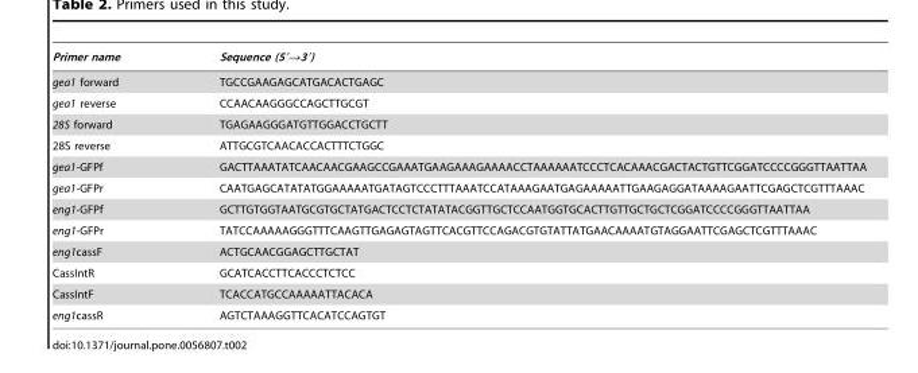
<table><thead><tr><td>Primer name</td><td>Sequence (5′→3′)</td></tr></thead><tbody><tr><td>gea1 forward</td><td>TGCCGAAGAGCATGACACTGAGC</td></tr><tr><td>gea1 reverse</td><td>CCAACAAGGGCCAGCTTGCGT</td></tr><tr><td>28S forward</td><td>TGAGAAGGGATGTTGGACCTGCTT</td></tr><tr><td>28S reverse</td><td>ATTGCGTCAACACCACTTTCTGGC</td></tr><tr><td>gea1-GFPf</td><td>GACTTAAATATCAACAACGAAGCCGAAATGAAGAAAGAAAACCTAAAAAATCCCTCACAAACGACTACTGTTCGGATCCCCGGGTTAATTAA</td></tr><tr><td>gea1-GFPr</td><td>CAATGAGCATATATGGAAAAATGATAGTCCCTTTAAATCCATAAAGAATGAGAAAAATTGAAGAGGATAAAAGAATTCGAGCTCGTTTAAAC</td></tr><tr><td>eng1-GFPf</td><td>GCTTGTGGTAATGCGTGCTATGACTCCTCTATATACGGTTGCTCCAATGGTGCACTTGTTGCTGCTCGGATCCCCGGGTTAATTAA</td></tr><tr><td>eng1-GFPr</td><td>TATCCAAAAAGGGTTTCAAGTTGAGAGTAGTTCACGTTCCAGACGTGTATTATGAACAAAATGTAGGAATTCGAGCTCGTTTAAAC</td></tr><tr><td>eng1cassF</td><td>ACTGCAACGGAGCTTGCTAT</td></tr><tr><td>CassIntR</td><td>GCATCACCTTCACCCTCTCC</td></tr><tr><td>CassIntF</td><td>TCACCATGCCAAAAATTACACA</td></tr><tr><td>eng1cassR</td><td>AGTCTAAAGGTTCACATCCAGTGT</td></tr></tbody></table>